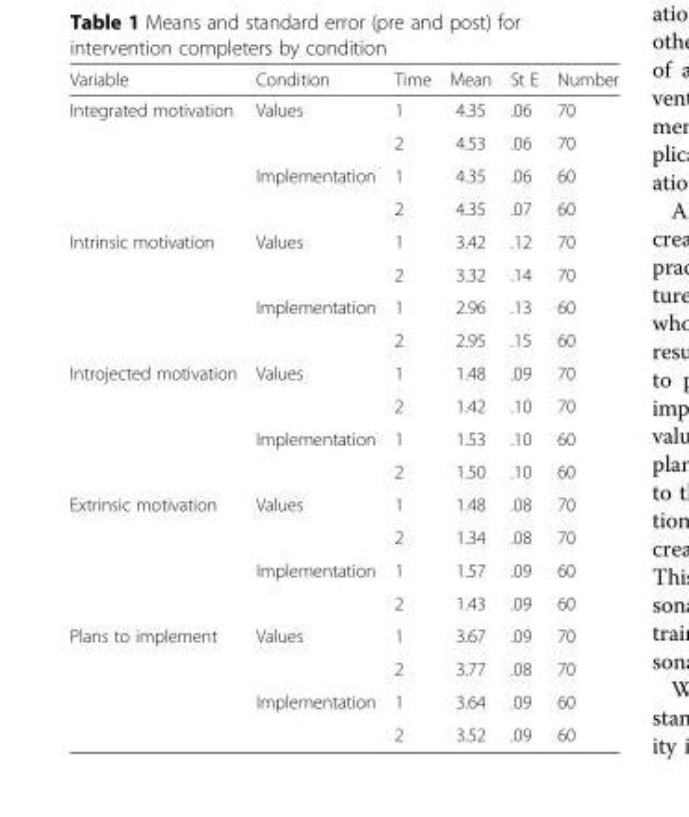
<table><thead><tr><td>Variable</td><td>Condition</td><td>Time</td><td>Mean</td><td>St E</td><td>Number</td></tr></thead><tbody><tr><td rowspan="4">Integrated motivation</td><td rowspan="2">Values</td><td>1</td><td>4.35</td><td>.06</td><td>70</td></tr><tr><td>2</td><td>4.53</td><td>.06</td><td>70</td></tr><tr><td rowspan="2">Implementation</td><td>1</td><td>4.35</td><td>.06</td><td>60</td></tr><tr><td>2</td><td>4.35</td><td>.07</td><td>60</td></tr><tr><td rowspan="4">Intrinsic motivation</td><td rowspan="2">Values</td><td>1</td><td>3.42</td><td>.12</td><td>70</td></tr><tr><td>2</td><td>3.32</td><td>.14</td><td>70</td></tr><tr><td rowspan="2">Implementation</td><td>1</td><td>2.96</td><td>.13</td><td>60</td></tr><tr><td>2</td><td>2.95</td><td>.15</td><td>60</td></tr><tr><td rowspan="4">Introjected motivation</td><td rowspan="2">Values</td><td>1</td><td>1.48</td><td>.09</td><td>70</td></tr><tr><td>2</td><td>1.42</td><td>.10</td><td>70</td></tr><tr><td rowspan="2">Implementation</td><td>1</td><td>1.53</td><td>.10</td><td>60</td></tr><tr><td>2</td><td>1.50</td><td>.10</td><td>60</td></tr><tr><td rowspan="4">Extrinsic motivation</td><td rowspan="2">Values</td><td>1</td><td>1.48</td><td>.08</td><td>70</td></tr><tr><td>2</td><td>1.34</td><td>.08</td><td>70</td></tr><tr><td rowspan="2">Implementation</td><td>1</td><td>1.57</td><td>.09</td><td>60</td></tr><tr><td>2</td><td>1.43</td><td>.09</td><td>60</td></tr><tr><td rowspan="4">Plans to implement</td><td rowspan="2">Values</td><td>1</td><td>3.67</td><td>.09</td><td>70</td></tr><tr><td>2</td><td>3.77</td><td>.08</td><td>70</td></tr><tr><td rowspan="2">Implementation</td><td>1</td><td>3.64</td><td>.09</td><td>60</td></tr><tr><td>2</td><td>3.52</td><td>.09</td><td>60</td></tr></tbody></table>